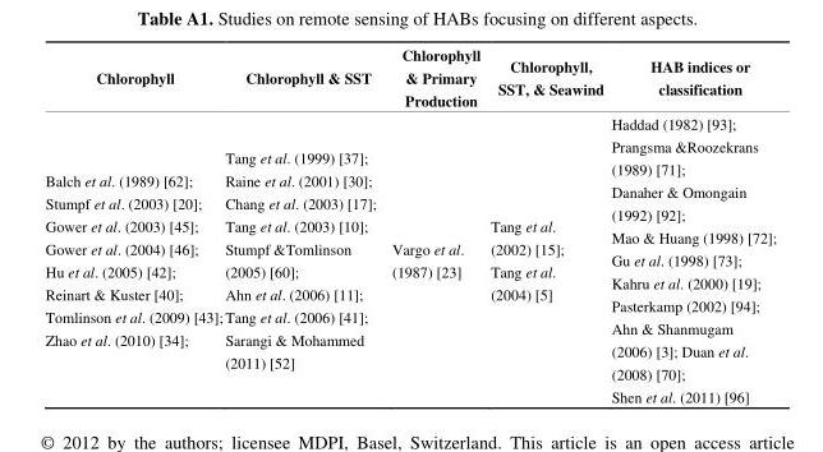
<table><thead><tr><td>Chlorophyll</td><td>Chlorophyll &amp; SST</td><td>Chlorophyll &amp; Primary Production</td><td>Chlorophyll, SST, &amp; Seawind</td><td>HAB indices or classification</td></tr></thead><tbody><tr><td>Balch et al. (1989) [62]; Stumpf et al. (2003) [20]; Gower et al. (2003) [45]; Gower et al. (2004) [46]; Hu et al. (2005) [42]; Reinart &amp; Kuster [40]; Tomlinson et al. (2009) [43]; Zhao et al. (2010) [34];</td><td>Tang et al. (1999) [37]; Raine et al. (2001) [30]; Chang et al. (2003) [17]; Tang et al. (2003) [10]; Stumpf &amp;Tomlinson (2005) [60]; Ahn et al. (2006) [11]; Tang et al. (2006) [41]; Sarangi &amp; Mohammed (2011) [52]</td><td>Vargo et al. (1987) [23]</td><td>Tang et al. (2002) [15]; Tang et al. (2004) [5]</td><td>Haddad (1982) [93]; Prangsma &amp;Roozekrans (1989) [71]; Danaher &amp; Omongain (1992) [92]; Mao &amp; Huang (1998) [72]; Gu et al. (1998) [73]; Kahru et al. (2000) [19]; Pasterkamp (2002) [94]; Ahn &amp; Shanmugam (2006) [3]; Duan et al. (2008) [70]; Shen et al. (2011) [96]</td></tr></tbody></table>